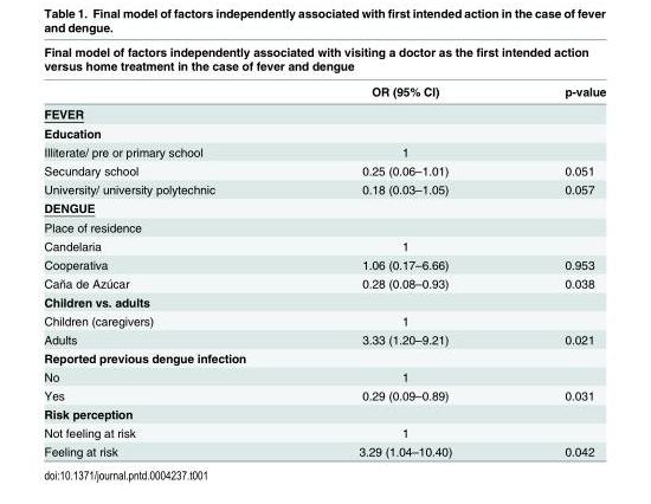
<table><thead><tr><td colspan="3">Final model of factors independently associated with visiting a doctor as the first intended action versus home treatment in the case of fever and dengue</td></tr><tr><td></td><td>OR (95% CI)</td><td>p-value</td></tr></thead><tbody><tr><td colspan="3">FEVER</td></tr><tr><td colspan="3">Education</td></tr><tr><td>Illiterate/ pre or primary school</td><td>1</td><td></td></tr><tr><td>Secundary school</td><td>0.25 (0.06–1.01)</td><td>0.051</td></tr><tr><td>University/ university polytechnic</td><td>0.18 (0.03–1.05)</td><td>0.057</td></tr><tr><td colspan="3">DENGUE</td></tr><tr><td colspan="3">Place of residence</td></tr><tr><td>Candelaria</td><td>1</td><td></td></tr><tr><td>Cooperativa</td><td>1.06 (0.17–6.66)</td><td>0.953</td></tr><tr><td>Caña de Azúcar</td><td>0.28 (0.08–0.93)</td><td>0.038</td></tr><tr><td colspan="3">Children vs. adults</td></tr><tr><td>Children (caregivers)</td><td>1</td><td></td></tr><tr><td>Adults</td><td>3.33 (1.20–9.21)</td><td>0.021</td></tr><tr><td colspan="3">Reported previous dengue infection</td></tr><tr><td>No</td><td>1</td><td></td></tr><tr><td>Yes</td><td>0.29 (0.09–0.89)</td><td>0.031</td></tr><tr><td colspan="3">Risk perception</td></tr><tr><td>Not feeling at risk</td><td>1</td><td></td></tr><tr><td>Feeling at risk</td><td>3.29 (1.04–10.40)</td><td>0.042</td></tr></tbody></table>